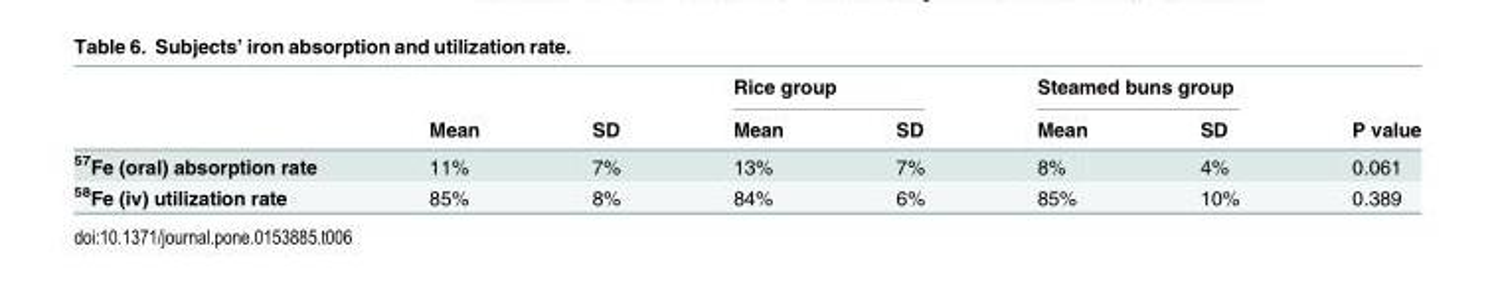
<table><thead><tr><td rowspan="2"></td><td rowspan="2">Mean</td><td rowspan="2">SD</td><td colspan="2">Rice group</td><td colspan="2">Steamed buns group</td><td rowspan="2">P value</td></tr><tr><td>Mean</td><td>SD</td><td>Mean</td><td>SD</td></tr></thead><tbody><tr><td><sup>57</sup>Fe (oral) absorption rate</td><td>11%</td><td>7%</td><td>13%</td><td>7%</td><td>8%</td><td>4%</td><td>0.061</td></tr><tr><td><sup>58</sup>Fe (iv) utilization rate</td><td>85%</td><td>8%</td><td>84%</td><td>6%</td><td>85%</td><td>10%</td><td>0.389</td></tr></tbody></table>